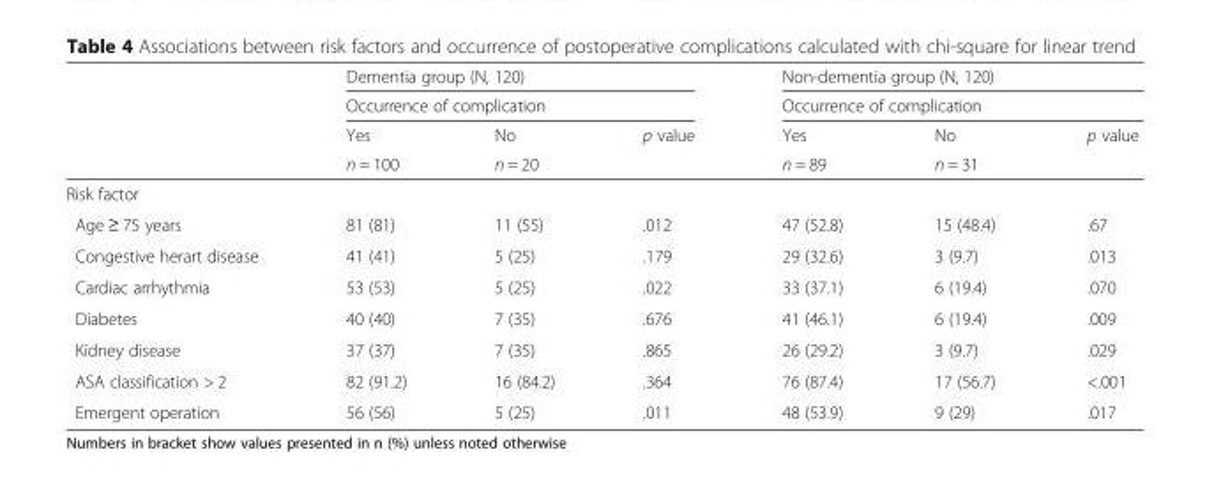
<table><thead><tr><td rowspan="4"></td><td rowspan="2" colspan="3">Dementia group (N, 120) Occurrence of complication</td><td rowspan="2" colspan="3">Non-dementia group (N, 120) Occurrence of complication</td></tr><tr></tr><tr><td rowspan="2">Yes n = 100</td><td rowspan="2">No n = 20</td><td rowspan="2">p value</td><td rowspan="2">Yes n = 89</td><td rowspan="2">No n = 31</td><td rowspan="2">p value</td></tr><tr></tr></thead><tbody><tr><td colspan="7">Risk factor</td></tr><tr><td>Age ≥ 75 years</td><td>81 (81)</td><td>11 (55)</td><td>.012</td><td>47 (52.8)</td><td>15 (48.4)</td><td>.67</td></tr><tr><td>Congestive herart disease</td><td>41 (41)</td><td>5 (25)</td><td>.179</td><td>29 (32.6)</td><td>3 (9.7)</td><td>.013</td></tr><tr><td>Cardiac arrhythmia</td><td>53 (53)</td><td>5 (25)</td><td>.022</td><td>33 (37.1)</td><td>6 (19.4)</td><td>.070</td></tr><tr><td>Diabetes</td><td>40 (40)</td><td>7 (35)</td><td>.676</td><td>41 (46.1)</td><td>6 (19.4)</td><td>.009</td></tr><tr><td>Kidney disease</td><td>37 (37)</td><td>7 (35)</td><td>.865</td><td>26 (29.2)</td><td>3 (9.7)</td><td>.029</td></tr><tr><td>ASA classification &gt; 2</td><td>82 (91.2)</td><td>16 (84.2)</td><td>.364</td><td>76 (87.4)</td><td>17 (56.7)</td><td>&lt;.001</td></tr><tr><td>Emergent operation</td><td>56 (56)</td><td>5 (25)</td><td>.011</td><td>48 (53.9)</td><td>9 (29)</td><td>.017</td></tr></tbody></table>